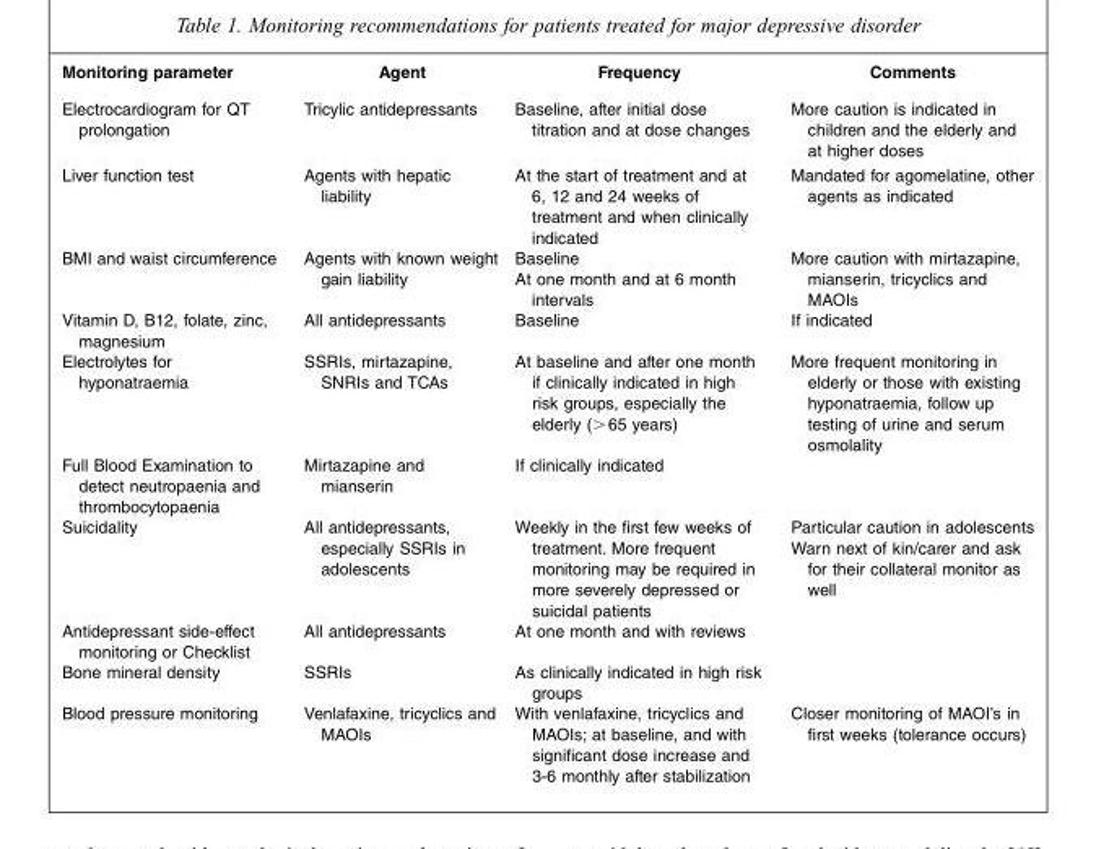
<table><thead><tr><td>Monitoring parameter</td><td>Agent</td><td>Frequency</td><td>Comments</td></tr></thead><tbody><tr><td>Electrocardiogram for QT prolongation</td><td>Tricylic antidepressants</td><td>Baseline, after initial dose titration and at dose changes</td><td>More caution is indicated in children and the elderly and at higher doses</td></tr><tr><td>Liver function test</td><td>Agents with hepatic liability</td><td>At the start of treatment and at 6, 12 and 24 weeks of treatment and when clinically indicated</td><td>Mandated for agomelatine, other agents as indicated</td></tr><tr><td>BMI and waist circumference</td><td>Agents with known weight gain liability</td><td>Baseline At one month and at 6 month intervals</td><td>More caution with mirtazapine, mianserin, tricyclics and MAOIs</td></tr><tr><td>Vitamin D, B12, folate, zinc, magnesium</td><td>All antidepressants</td><td>Baseline</td><td>If indicated</td></tr><tr><td>Electrolytes for hyponatraemia</td><td>SSRIs, mirtazapine, SNRIs and TCAs</td><td>At baseline and after one month if clinically indicated in high risk groups, especially the elderly ( &gt; 65 years)</td><td>More frequent monitoring in elderly or those with existing hyponatraemia, follow up testing of urine and serum osmolality</td></tr><tr><td>Full Blood Examination to detect neutropaenia and thrombocytopaenia</td><td>Mirtazapine and mianserin</td><td>If clinically indicated</td><td></td></tr><tr><td>Suicidality</td><td>All antidepressants, especially SSRIs in adolescents</td><td>Weekly in the fi rst few weeks of treatment. More frequent monitoring may be required in more severely depressed or suicidal patients</td><td>Particular caution in adolescents Warn next of kin/carer and ask for their collateral monitor as well</td></tr><tr><td>Antidepressant side-effect monitoring or Checklist</td><td>All antidepressants</td><td>At one month and with reviews</td><td></td></tr><tr><td>Bone mineral density</td><td>SSRIs</td><td>As clinically indicated in high risk groups</td><td></td></tr><tr><td>Blood pressure monitoring</td><td>Venlafaxine, tricyclics and MAOIs</td><td>With venlafaxine, tricyclics and MAOIs; at baseline, and with signifi cant dose increase and 3-6 monthly after stabilization</td><td>Closer monitoring of MAOI ’ s in fi rst weeks (tolerance occurs)</td></tr></tbody></table>